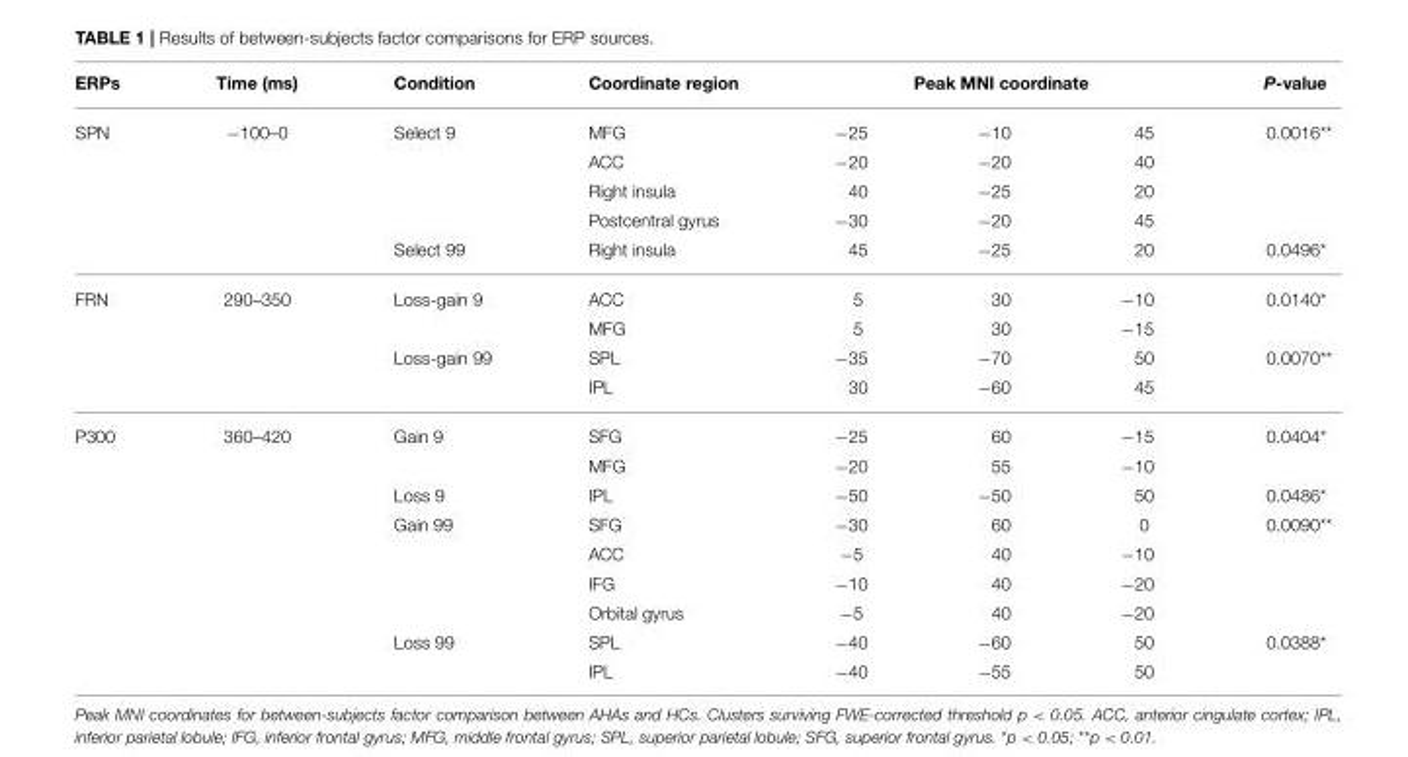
<table><thead><tr><td rowspan="2">ERPs SPN</td><td rowspan="2">Time (ms) −100–0</td><td rowspan="2">Condition Select 9</td><td rowspan="2">Coordinate region MFG</td><td colspan="3">Peak MNI coordinate</td><td rowspan="2">P-value 0.0016**</td></tr><tr><td>−25</td><td>−10</td><td>45</td></tr></thead><tbody><tr><td></td><td></td><td></td><td>ACC</td><td>−20</td><td>−20</td><td>40</td><td></td></tr><tr><td></td><td></td><td></td><td>Right insula</td><td>40</td><td>−25</td><td>20</td><td></td></tr><tr><td></td><td></td><td></td><td>Postcentral gyrus</td><td>−30</td><td>−20</td><td>45</td><td></td></tr><tr><td></td><td></td><td>Select 99</td><td>Right insula</td><td>45</td><td>−25</td><td>20</td><td>0.0496*</td></tr><tr><td rowspan="4">FRN</td><td>290–350</td><td>Loss-gain 9</td><td>ACC</td><td>5</td><td>30</td><td>−10</td><td>0.0140*</td></tr><tr><td></td><td></td><td>MFG</td><td>5</td><td>30</td><td>−15</td><td></td></tr><tr><td></td><td>Loss-gain 99</td><td>SPL</td><td>−35</td><td>−70</td><td>50</td><td>0.0070**</td></tr><tr><td></td><td></td><td>IPL</td><td>30</td><td>−60</td><td>45</td><td></td></tr><tr><td rowspan="9">P300</td><td>360–420</td><td>Gain 9</td><td>SFG</td><td>−25</td><td>60</td><td>−15</td><td>0.0404*</td></tr><tr><td></td><td></td><td>MFG</td><td>−20</td><td>55</td><td>−10</td><td></td></tr><tr><td></td><td>Loss 9</td><td>IPL</td><td>−50</td><td>−50</td><td>50</td><td>0.0486*</td></tr><tr><td></td><td>Gain 99</td><td>SFG</td><td>−30</td><td>60</td><td>0</td><td>0.0090**</td></tr><tr><td></td><td></td><td>ACC</td><td>−5</td><td>40</td><td>−10</td><td></td></tr><tr><td></td><td></td><td>IFG</td><td>−10</td><td>40</td><td>−20</td><td></td></tr><tr><td></td><td></td><td>Orbital gyrus</td><td>−5</td><td>40</td><td>−20</td><td></td></tr><tr><td></td><td>Loss 99</td><td>SPL</td><td>−40</td><td>−60</td><td>50</td><td>0.0388*</td></tr><tr><td></td><td></td><td>IPL</td><td>−40</td><td>−55</td><td>50</td><td></td></tr></tbody></table>